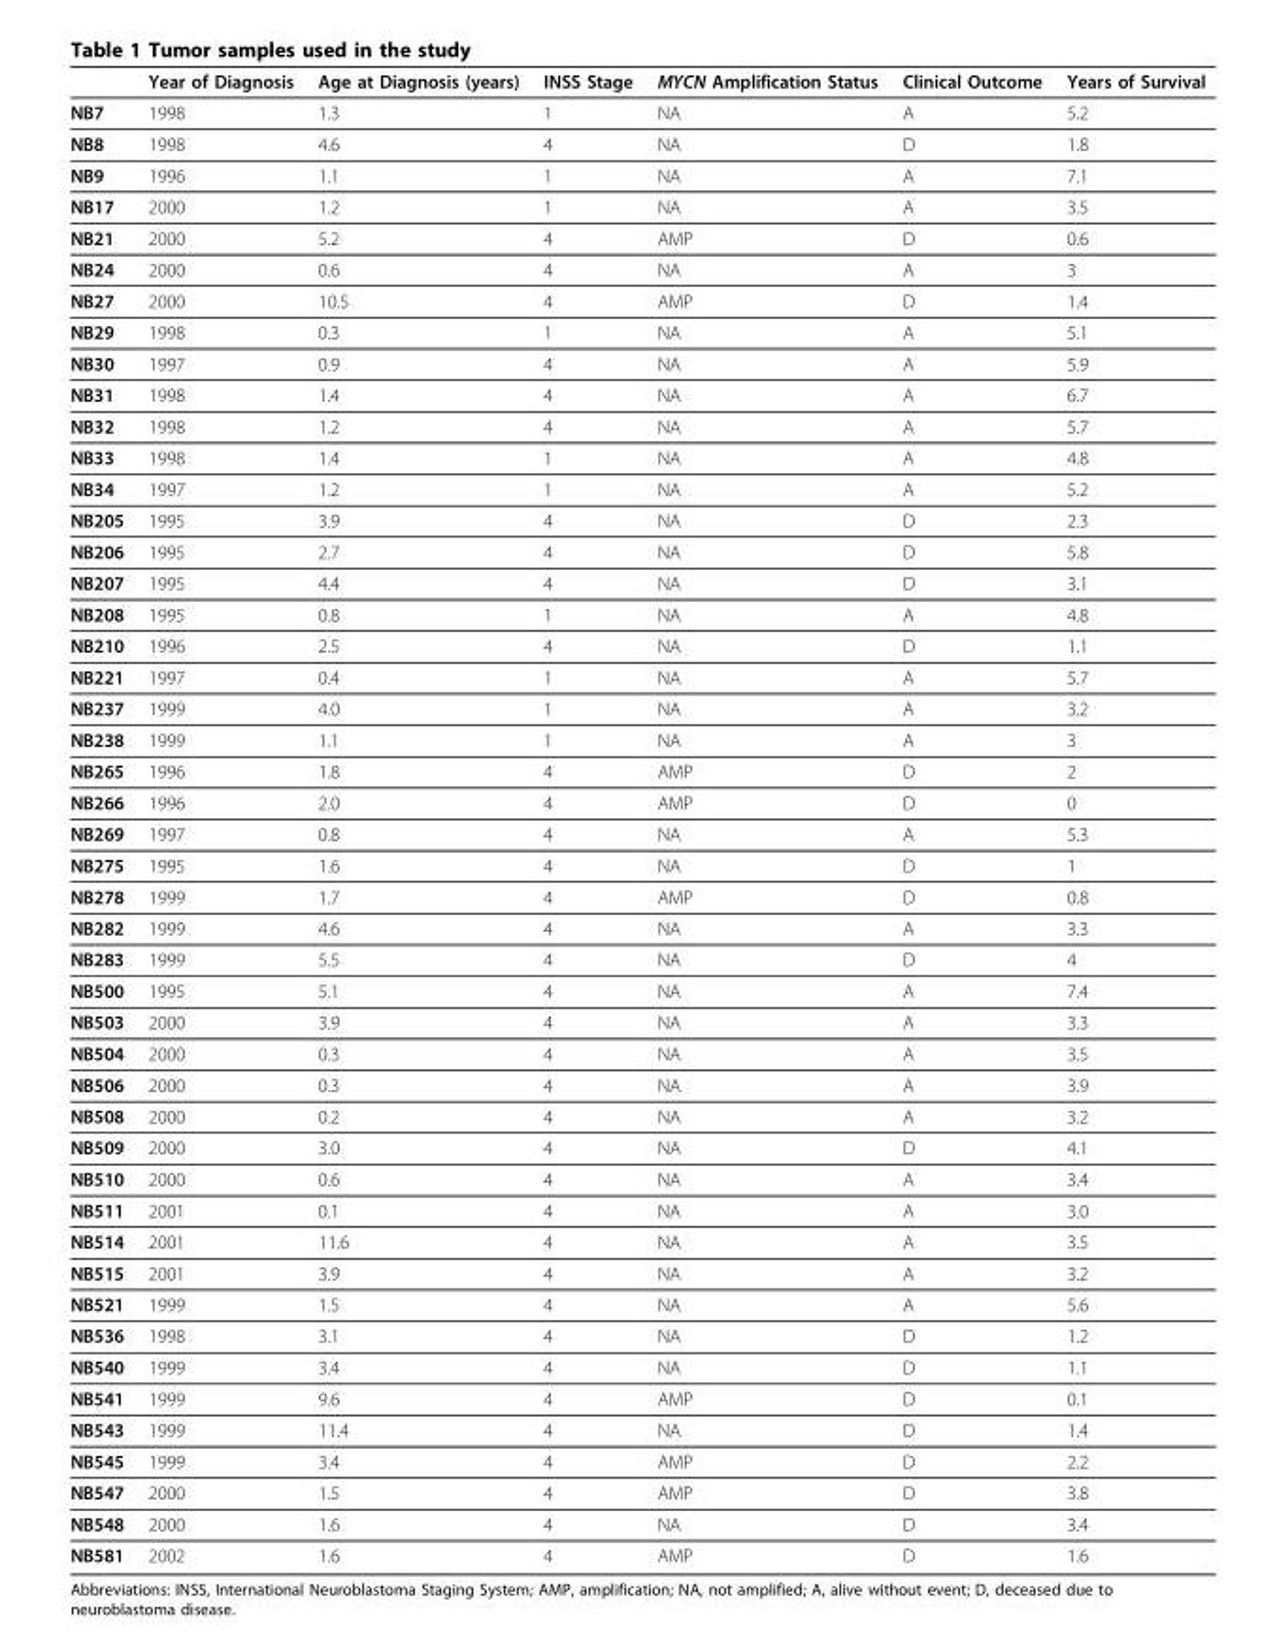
<table><thead><tr><td></td><td>Year of Diagnosis</td><td>Age at Diagnosis (years)</td><td>INSS Stage</td><td>MYCN Amplification Status</td><td>Clinical Outcome</td><td>Years of Survival</td></tr></thead><tbody><tr><td>NB7</td><td>1998</td><td>1.3</td><td>1</td><td>NA</td><td>A</td><td>5.2</td></tr><tr><td>NB8</td><td>1998</td><td>4.6</td><td>4</td><td>NA</td><td>D</td><td>1.8</td></tr><tr><td>NB9</td><td>1996</td><td>1.1</td><td>1</td><td>NA</td><td>A</td><td>7.1</td></tr><tr><td>NB17</td><td>2000</td><td>1.2</td><td>1</td><td>NA</td><td>A</td><td>3.5</td></tr><tr><td>NB21</td><td>2000</td><td>5.2</td><td>4</td><td>AMP</td><td>D</td><td>0.6</td></tr><tr><td>NB24</td><td>2000</td><td>0.6</td><td>4</td><td>NA</td><td>A</td><td>3</td></tr><tr><td>NB27</td><td>2000</td><td>10.5</td><td>4</td><td>AMP</td><td>D</td><td>1.4</td></tr><tr><td>NB29</td><td>1998</td><td>0.3</td><td>1</td><td>NA</td><td>A</td><td>5.1</td></tr><tr><td>NB30</td><td>1997</td><td>0.9</td><td>4</td><td>NA</td><td>A</td><td>5.9</td></tr><tr><td>NB31</td><td>1998</td><td>1.4</td><td>4</td><td>NA</td><td>A</td><td>6.7</td></tr><tr><td>NB32</td><td>1998</td><td>1.2</td><td>4</td><td>NA</td><td>A</td><td>5.7</td></tr><tr><td>NB33</td><td>1998</td><td>1.4</td><td>1</td><td>NA</td><td>A</td><td>4.8</td></tr><tr><td>NB34</td><td>1997</td><td>1.2</td><td>1</td><td>NA</td><td>A</td><td>5.2</td></tr><tr><td>NB205</td><td>1995</td><td>3.9</td><td>4</td><td>NA</td><td>D</td><td>2.3</td></tr><tr><td>NB206</td><td>1995</td><td>2.7</td><td>4</td><td>NA</td><td>D</td><td>5.8</td></tr><tr><td>NB207</td><td>1995</td><td>4.4</td><td>4</td><td>NA</td><td>D</td><td>3.1</td></tr><tr><td>NB208</td><td>1995</td><td>0.8</td><td>1</td><td>NA</td><td>A</td><td>4.8</td></tr><tr><td>NB210</td><td>1996</td><td>2.5</td><td>4</td><td>NA</td><td>D</td><td>1.1</td></tr><tr><td>NB221</td><td>1997</td><td>0.4</td><td>1</td><td>NA</td><td>A</td><td>5.7</td></tr><tr><td>NB237</td><td>1999</td><td>4.0</td><td>1</td><td>NA</td><td>A</td><td>3.2</td></tr><tr><td>NB238</td><td>1999</td><td>1.1</td><td>1</td><td>NA</td><td>A</td><td>3</td></tr><tr><td>NB265</td><td>1996</td><td>1.8</td><td>4</td><td>AMP</td><td>D</td><td>2</td></tr><tr><td>NB266</td><td>1996</td><td>2.0</td><td>4</td><td>AMP</td><td>D</td><td>0</td></tr><tr><td>NB269</td><td>1997</td><td>0.8</td><td>4</td><td>NA</td><td>A</td><td>5.3</td></tr><tr><td>NB275</td><td>1995</td><td>1.6</td><td>4</td><td>NA</td><td>D</td><td>1</td></tr><tr><td>NB278</td><td>1999</td><td>1.7</td><td>4</td><td>AMP</td><td>D</td><td>0.8</td></tr><tr><td>NB282</td><td>1999</td><td>4.6</td><td>4</td><td>NA</td><td>A</td><td>3.3</td></tr><tr><td>NB283</td><td>1999</td><td>5.5</td><td>4</td><td>NA</td><td>D</td><td>4</td></tr><tr><td>NB500</td><td>1995</td><td>5.1</td><td>4</td><td>NA</td><td>A</td><td>7.4</td></tr><tr><td>NB503</td><td>2000</td><td>3.9</td><td>4</td><td>NA</td><td>A</td><td>3.3</td></tr><tr><td>NB504</td><td>2000</td><td>0.3</td><td>4</td><td>NA</td><td>A</td><td>3.5</td></tr><tr><td>NB506</td><td>2000</td><td>0.3</td><td>4</td><td>NA</td><td>A</td><td>3.9</td></tr><tr><td>NB508</td><td>2000</td><td>0.2</td><td>4</td><td>NA</td><td>A</td><td>3.2</td></tr><tr><td>NB509</td><td>2000</td><td>3.0</td><td>4</td><td>NA</td><td>D</td><td>4.1</td></tr><tr><td>NB510</td><td>2000</td><td>0.6</td><td>4</td><td>NA</td><td>A</td><td>3.4</td></tr><tr><td>NB511</td><td>2001</td><td>0.1</td><td>4</td><td>NA</td><td>A</td><td>3.0</td></tr><tr><td>NB514</td><td>2001</td><td>11.6</td><td>4</td><td>NA</td><td>A</td><td>3.5</td></tr><tr><td>NB515</td><td>2001</td><td>3.9</td><td>4</td><td>NA</td><td>A</td><td>3.2</td></tr><tr><td>NB521</td><td>1999</td><td>1.5</td><td>4</td><td>NA</td><td>A</td><td>5.6</td></tr><tr><td>NB536</td><td>1998</td><td>3.1</td><td>4</td><td>NA</td><td>D</td><td>1.2</td></tr><tr><td>NB540</td><td>1999</td><td>3.4</td><td>4</td><td>NA</td><td>D</td><td>1.1</td></tr><tr><td>NB541</td><td>1999</td><td>9.6</td><td>4</td><td>AMP</td><td>D</td><td>0.1</td></tr><tr><td>NB543</td><td>1999</td><td>11.4</td><td>4</td><td>NA</td><td>D</td><td>1.4</td></tr><tr><td>NB545</td><td>1999</td><td>3.4</td><td>4</td><td>AMP</td><td>D</td><td>2.2</td></tr><tr><td>NB547</td><td>2000</td><td>1.5</td><td>4</td><td>AMP</td><td>D</td><td>3.8</td></tr><tr><td>NB548</td><td>2000</td><td>1.6</td><td>4</td><td>NA</td><td>D</td><td>3.4</td></tr><tr><td>NB581</td><td>2002</td><td>1.6</td><td>4</td><td>AMP</td><td>D</td><td>1.6</td></tr></tbody></table>